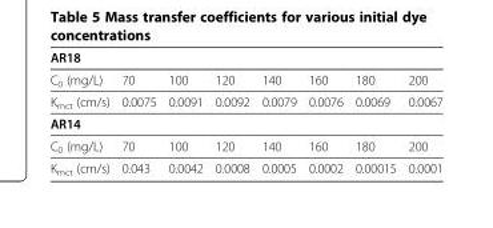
<table><thead><tr><td>AR18</td><td></td><td></td><td></td><td></td><td></td><td></td><td></td></tr></thead><tbody><tr><td>C<sub>0</sub> (mg/L)</td><td>70</td><td>100</td><td>120</td><td>140</td><td>160</td><td>180</td><td>200</td></tr><tr><td>K<sub>mct</sub> (cm/s)</td><td>0.0075</td><td>0.0091</td><td>0.0092</td><td>0.0079</td><td>0.0076</td><td>0.0069</td><td>0.0067</td></tr><tr><td colspan="8">AR14</td></tr><tr><td>C<sub>0</sub> (mg/L)</td><td>70</td><td>100</td><td>120</td><td>140</td><td>160</td><td>180</td><td>200</td></tr><tr><td>K<sub>mct</sub> (cm/s)</td><td>0.043</td><td>0.0042</td><td>0.0008</td><td>0.0005</td><td>0.0002</td><td>0.00015</td><td>0.0001</td></tr></tbody></table>